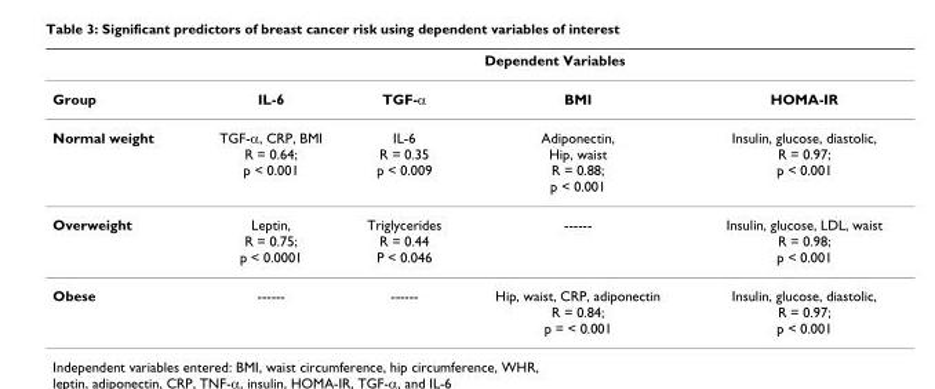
<table><thead><tr><td rowspan="2">Group</td><td colspan="4">Dependent Variables</td></tr><tr><td>IL-6</td><td>TGF-α</td><td>BMI</td><td>HOMA-IR</td></tr></thead><tbody><tr><td>Normal weight</td><td>TGF-α, CRP, BMI R = 0.64; p &lt; 0.001</td><td>IL-6 R = 0.35 p &lt; 0.009</td><td>Adiponectin, Hip, waist R = 0.88; p &lt; 0.001</td><td>Insulin, glucose, diastolic, R = 0.97; p &lt; 0.001</td></tr><tr><td>Overweight</td><td>Leptin, R = 0.75; p &lt; 0.0001</td><td>Triglycerides R = 0.44 P &lt; 0.046</td><td>------</td><td>Insulin, glucose, LDL, waist R = 0.98; p &lt; 0.001</td></tr><tr><td>Obese</td><td>------</td><td>------</td><td>Hip, waist, CRP, adiponectin R = 0.84; p = &lt; 0.001</td><td>Insulin, glucose, diastolic, R = 0.97; p &lt; 0.001</td></tr></tbody></table>